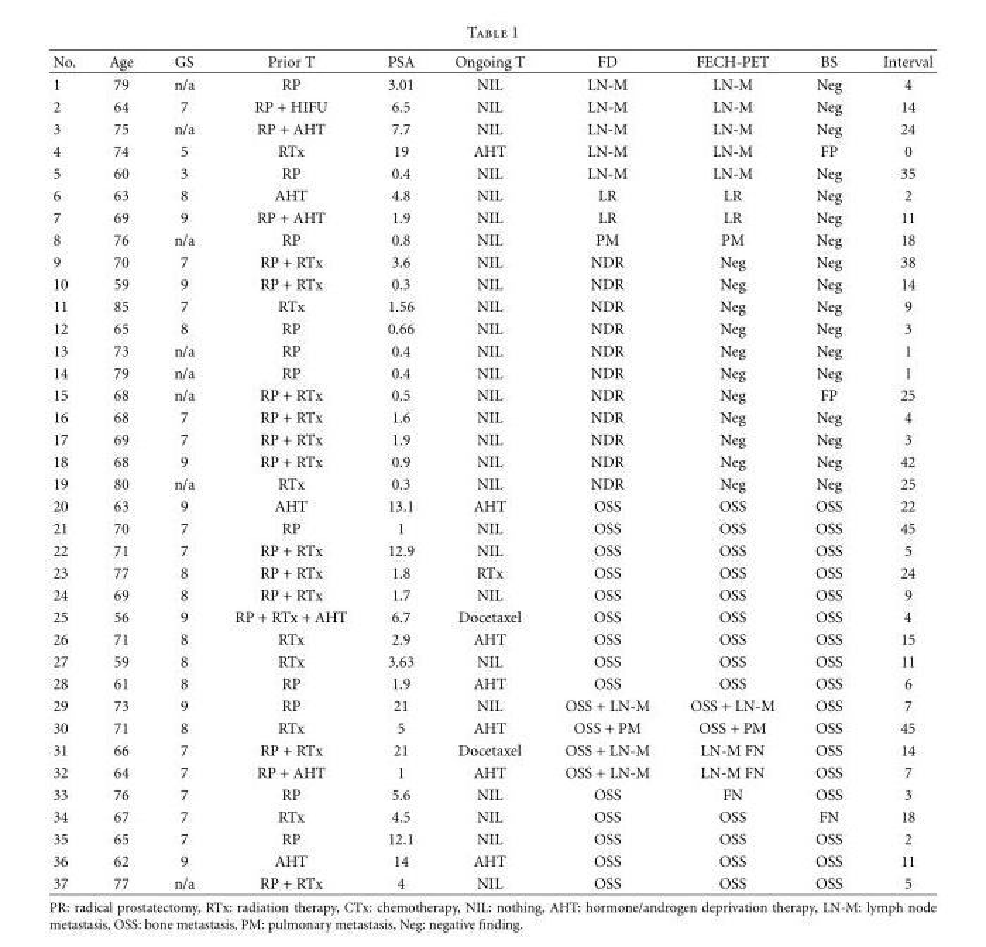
<table><thead><tr><td>No.</td><td>Age</td><td>GS</td><td>Prior T</td><td>PSA</td><td>Ongoing T</td><td>FD</td><td>FECH-PET</td><td>BS</td><td>Interval</td></tr></thead><tbody><tr><td>1</td><td>79</td><td>n/a</td><td>RP</td><td>3.01</td><td>NIL</td><td>LN-M</td><td>LN-M</td><td>Neg</td><td>4</td></tr><tr><td>2</td><td>64</td><td>7</td><td>RP + HIFU</td><td>6.5</td><td>NIL</td><td>LN-M</td><td>LN-M</td><td>Neg</td><td>14</td></tr><tr><td>3</td><td>75</td><td>n/a</td><td>RP + AHT</td><td>7.7</td><td>NIL</td><td>LN-M</td><td>LN-M</td><td>Neg</td><td>24</td></tr><tr><td>4</td><td>74</td><td>5</td><td>RTx</td><td>19</td><td>AHT</td><td>LN-M</td><td>LN-M</td><td>FP</td><td>0</td></tr><tr><td>5</td><td>60</td><td>3</td><td>RP</td><td>0.4</td><td>NIL</td><td>LN-M</td><td>LN-M</td><td>Neg</td><td>35</td></tr><tr><td>6</td><td>63</td><td>8</td><td>AHT</td><td>4.8</td><td>NIL</td><td>LR</td><td>LR</td><td>Neg</td><td>2</td></tr><tr><td>7</td><td>69</td><td>9</td><td>RP + AHT</td><td>1.9</td><td>NIL</td><td>LR</td><td>LR</td><td>Neg</td><td>11</td></tr><tr><td>8</td><td>76</td><td>n/a</td><td>RP</td><td>0.8</td><td>NIL</td><td>PM</td><td>PM</td><td>Neg</td><td>18</td></tr><tr><td>9</td><td>70</td><td>7</td><td>RP + RTx</td><td>3.6</td><td>NIL</td><td>NDR</td><td>Neg</td><td>Neg</td><td>38</td></tr><tr><td>10</td><td>59</td><td>9</td><td>RP + RTx</td><td>0.3</td><td>NIL</td><td>NDR</td><td>Neg</td><td>Neg</td><td>14</td></tr><tr><td>11</td><td>85</td><td>7</td><td>RTx</td><td>1.56</td><td>NIL</td><td>NDR</td><td>Neg</td><td>Neg</td><td>9</td></tr><tr><td>12</td><td>65</td><td>8</td><td>RP</td><td>0.66</td><td>NIL</td><td>NDR</td><td>Neg</td><td>Neg</td><td>3</td></tr><tr><td>13</td><td>73</td><td>n/a</td><td>RP</td><td>0.4</td><td>NIL</td><td>NDR</td><td>Neg</td><td>Neg</td><td>1</td></tr><tr><td>14</td><td>79</td><td>n/a</td><td>RP</td><td>0.4</td><td>NIL</td><td>NDR</td><td>Neg</td><td>Neg</td><td>1</td></tr><tr><td>15</td><td>68</td><td>n/a</td><td>RP + RTx</td><td>0.5</td><td>NIL</td><td>NDR</td><td>Neg</td><td>FP</td><td>25</td></tr><tr><td>16</td><td>68</td><td>7</td><td>RP + RTx</td><td>1.6</td><td>NIL</td><td>NDR</td><td>Neg</td><td>Neg</td><td>4</td></tr><tr><td>17</td><td>69</td><td>7</td><td>RP + RTx</td><td>1.9</td><td>NIL</td><td>NDR</td><td>Neg</td><td>Neg</td><td>3</td></tr><tr><td>18</td><td>68</td><td>9</td><td>RP + RTx</td><td>0.9</td><td>NIL</td><td>NDR</td><td>Neg</td><td>Neg</td><td>42</td></tr><tr><td>19</td><td>80</td><td>n/a</td><td>RTx</td><td>0.3</td><td>NIL</td><td>NDR</td><td>Neg</td><td>Neg</td><td>25</td></tr><tr><td>20</td><td>63</td><td>9</td><td>AHT</td><td>13.1</td><td>AHT</td><td>OSS</td><td>OSS</td><td>OSS</td><td>22</td></tr><tr><td>21</td><td>70</td><td>7</td><td>RP</td><td>1</td><td>NIL</td><td>OSS</td><td>OSS</td><td>OSS</td><td>45</td></tr><tr><td>22</td><td>71</td><td>7</td><td>RP + RTx</td><td>12.9</td><td>NIL</td><td>OSS</td><td>OSS</td><td>OSS</td><td>5</td></tr><tr><td>23</td><td>77</td><td>8</td><td>RP + RTx</td><td>1.8</td><td>RTx</td><td>OSS</td><td>OSS</td><td>OSS</td><td>24</td></tr><tr><td>24</td><td>69</td><td>8</td><td>RP + RTx</td><td>1.7</td><td>NIL</td><td>OSS</td><td>OSS</td><td>OSS</td><td>9</td></tr><tr><td>25</td><td>56</td><td>9</td><td>RP + RTx + AHT</td><td>6.7</td><td>Docetaxel</td><td>OSS</td><td>OSS</td><td>OSS</td><td>4</td></tr><tr><td>26</td><td>71</td><td>8</td><td>RTx</td><td>2.9</td><td>AHT</td><td>OSS</td><td>OSS</td><td>OSS</td><td>15</td></tr><tr><td>27</td><td>59</td><td>8</td><td>RTx</td><td>3.63</td><td>NIL</td><td>OSS</td><td>OSS</td><td>OSS</td><td>11</td></tr><tr><td>28</td><td>61</td><td>8</td><td>RP</td><td>1.9</td><td>AHT</td><td>OSS</td><td>OSS</td><td>OSS</td><td>6</td></tr><tr><td>29</td><td>73</td><td>9</td><td>RP</td><td>21</td><td>NIL</td><td>OSS + LN-M</td><td>OSS + LN-M</td><td>OSS</td><td>7</td></tr><tr><td>30</td><td>71</td><td>8</td><td>RTx</td><td>5</td><td>AHT</td><td>OSS + PM</td><td>OSS + PM</td><td>OSS</td><td>45</td></tr><tr><td>31</td><td>66</td><td>7</td><td>RP + RTx</td><td>21</td><td>Docetaxel</td><td>OSS + LN-M</td><td>LN-M FN</td><td>OSS</td><td>14</td></tr><tr><td>32</td><td>64</td><td>7</td><td>RP + AHT</td><td>1</td><td>AHT</td><td>OSS + LN-M</td><td>LN-M FN</td><td>OSS</td><td>7</td></tr><tr><td>33</td><td>76</td><td>7</td><td>RP</td><td>5.6</td><td>NIL</td><td>OSS</td><td>FN</td><td>OSS</td><td>3</td></tr><tr><td>34</td><td>67</td><td>7</td><td>RTx</td><td>4.5</td><td>NIL</td><td>OSS</td><td>OSS</td><td>FN</td><td>18</td></tr><tr><td>35</td><td>65</td><td>7</td><td>RP</td><td>12.1</td><td>NIL</td><td>OSS</td><td>OSS</td><td>OSS</td><td>2</td></tr><tr><td>36</td><td>62</td><td>9</td><td>AHT</td><td>14</td><td>AHT</td><td>OSS</td><td>OSS</td><td>OSS</td><td>11</td></tr><tr><td>37</td><td>77</td><td>n/a</td><td>RP + RTx</td><td>4</td><td>NIL</td><td>OSS</td><td>OSS</td><td>OSS</td><td>5</td></tr></tbody></table>